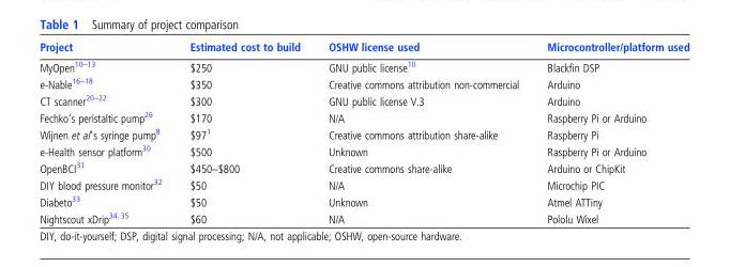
<table><thead><tr><td>Project</td><td>Estimated cost to build</td><td>OSHW license used</td><td>Microcontroller/platform used</td></tr></thead><tbody><tr><td>MyOpen<sup>10–13</sup></td><td>$250</td><td>GNU public license<sup>10</sup></td><td>Blackfin DSP</td></tr><tr><td>e-Nable<sup>16–18</sup></td><td>$350</td><td>Creative commons attribution non-commercial</td><td>Arduino</td></tr><tr><td>CT scanner<sup>20–22</sup></td><td>$300</td><td>GNU public license V.3</td><td>Arduino</td></tr><tr><td>Fechko’s peristaltic pump<sup>26</sup></td><td>$170</td><td>N/A</td><td>Raspberry Pi or Arduino</td></tr><tr><td>Wijnen et al’s syringe pump<sup>8</sup></td><td>$97<sup>1</sup></td><td>Creative commons attribution share-alike</td><td>Raspberry Pi</td></tr><tr><td>e-Health sensor platform<sup>30</sup></td><td>$500</td><td>Unknown</td><td>Raspberry Pi or Arduino</td></tr><tr><td>OpenBCI<sup>31</sup></td><td>$450–$800</td><td>Creative commons share-alike</td><td>Arduino or ChipKit</td></tr><tr><td>DIY blood pressure monitor<sup>32</sup></td><td>$50</td><td>N/A</td><td>Microchip PIC</td></tr><tr><td>Diabeto<sup>33</sup></td><td>$50</td><td>Unknown</td><td>Atmel ATTiny</td></tr><tr><td>Nightscout xDrip<sup>34 35</sup></td><td>$60</td><td>N/A</td><td>Pololu Wixel</td></tr></tbody></table>